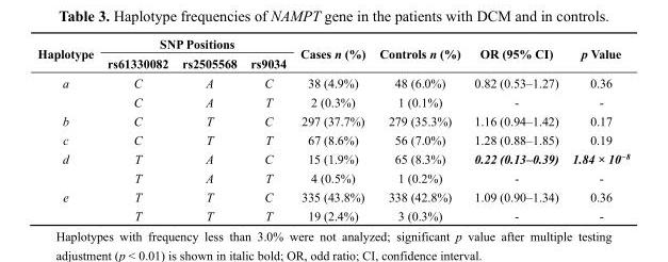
<table><thead><tr><td rowspan="2">Haplotype</td><td colspan="3">SNP Positions</td><td rowspan="2">Cases n (%)</td><td rowspan="2">Controls n (%)</td><td rowspan="2">OR (95% CI)</td><td rowspan="2">p Value</td></tr><tr><td>rs61330082</td><td>rs2505568</td><td>rs9034</td></tr></thead><tbody><tr><td rowspan="2">a</td><td>C</td><td>A</td><td>C</td><td>38 (4.9%)</td><td>48 (6.0%)</td><td>0.82 (0.53–1.27)</td><td>0.36</td></tr><tr><td>C</td><td>A</td><td>T</td><td>2 (0.3%)</td><td>1 (0.1%)</td><td>-</td><td>-</td></tr><tr><td>b</td><td>C</td><td>T</td><td>C</td><td>297 (37.7%)</td><td>279 (35.3%)</td><td>1.16 (0.94–1.42)</td><td>0.17</td></tr><tr><td>c</td><td>C</td><td>T</td><td>T</td><td>67 (8.6%)</td><td>56 (7.0%)</td><td>1.28 (0.88–1.85)</td><td>0.19</td></tr><tr><td rowspan="2">d</td><td>T</td><td>A</td><td>C</td><td>15 (1.9%)</td><td>65 (8.3%)</td><td>0.22 (0.13–0.39)</td><td>1.84 × 10<sup>−8</sup></td></tr><tr><td>T</td><td>A</td><td>T</td><td>4 (0.5%)</td><td>1 (0.2%)</td><td>-</td><td>-</td></tr><tr><td rowspan="2">e</td><td>T</td><td>T</td><td>C</td><td>335 (43.8%)</td><td>338 (42.8%)</td><td>1.09 (0.90–1.34)</td><td>0.36</td></tr><tr><td>T</td><td>T</td><td>T</td><td>19 (2.4%)</td><td>3 (0.3%)</td><td>-</td><td>-</td></tr></tbody></table>